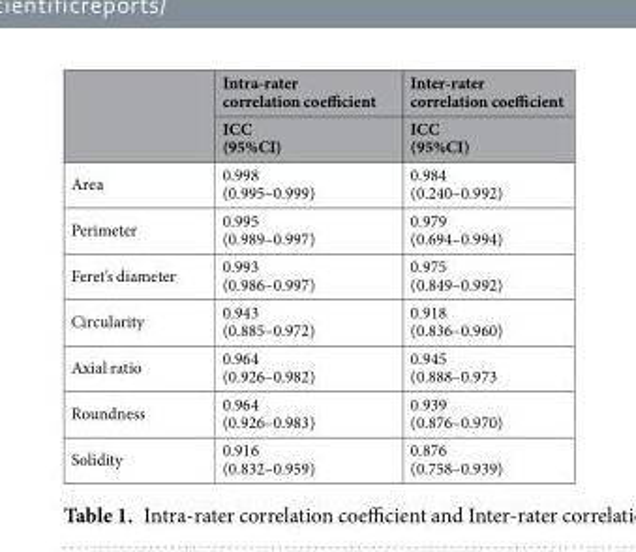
<table><thead><tr><td rowspan="2"></td><td rowspan="2">Intra-rater correlation coefficient ICC (95%CI)</td><td rowspan="2">Inter-rater correlation coefficient ICC (95%CI)</td></tr><tr></tr></thead><tbody><tr><td>Area</td><td>0.998 (0.995–0.999)</td><td>0.984 (0.240–0.992)</td></tr><tr><td>Perimeter</td><td>0.995 (0.989–0.997)</td><td>0.979 (0.694–0.994)</td></tr><tr><td>Feret’s diameter</td><td>0.993 (0.986–0.997)</td><td>0.975 (0.849–0.992)</td></tr><tr><td>Circularity</td><td>0.943 (0.885–0.972)</td><td>0.918 (0.836–0.960)</td></tr><tr><td>Axial ratio</td><td>0.964 (0.926–0.982)</td><td>0.945 (0.888–0.973</td></tr><tr><td>Roundness</td><td>0.964 (0.926–0.983)</td><td>0.939 (0.876–0.970)</td></tr><tr><td>Solidity</td><td>0.916 (0.832–0.959)</td><td>0.876 (0.758–0.939)</td></tr></tbody></table>